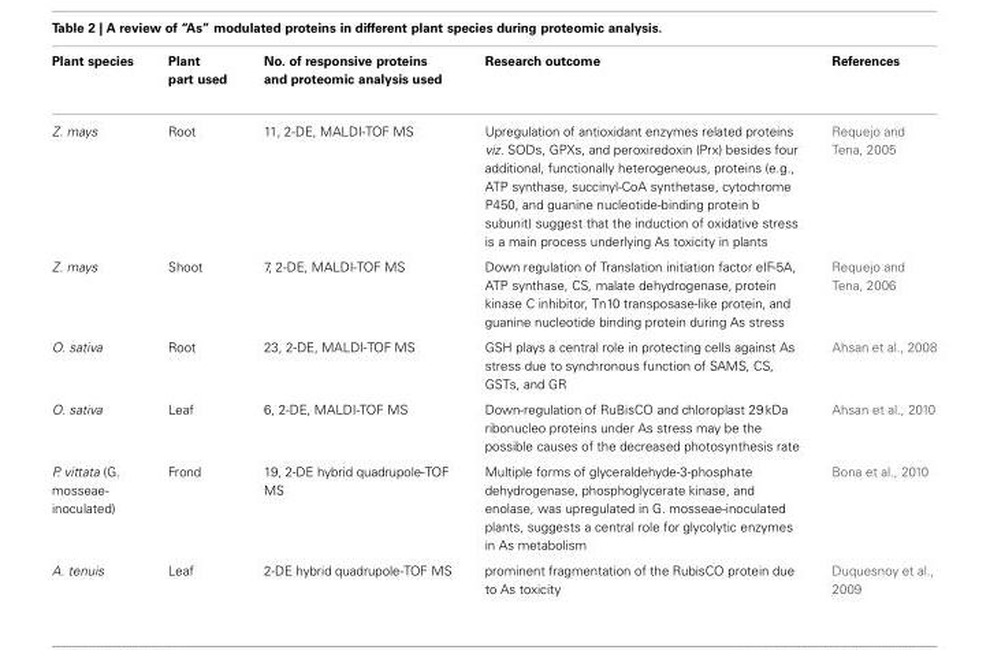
<table><thead><tr><td>Plant species</td><td>Plant part used</td><td>No. of responsive proteins and proteomic analysis used</td><td>Research outcome</td><td>References</td></tr></thead><tbody><tr><td>Z. mays</td><td>Root</td><td>11, 2-DE, MALDI-TOF MS</td><td>Upregulation of antioxidant enzymes related proteins viz. SODs, GPXs, and peroxiredoxin (Prx) besides four additional, functionally heterogeneous, proteins (e.g., ATP synthase, succinyl-CoA synthetase, cytochrome P450, and guanine nucleotide-binding protein b subunit) suggest that the induction of oxidative stress is a main process underlying As toxicity in plants</td><td>Requejo and Tena, 2005</td></tr><tr><td>Z. mays</td><td>Shoot</td><td>7, 2-DE, MALDI-TOF MS</td><td>Down regulation of Translation initiation factor eIF-5A, ATP synthase, CS, malate dehydrogenase, protein kinase C inhibitor, Tn10 transposase-like protein, and guanine nucleotide binding protein during As stress</td><td>Requejo and Tena, 2006</td></tr><tr><td>O. sativa</td><td>Root</td><td>23, 2-DE, MALDI-TOF MS</td><td>GSH plays a central role in protecting cells against As stress due to synchronous function of SAMS, CS, GSTs, and GR</td><td>Ahsan et al., 2008</td></tr><tr><td>O. sativa</td><td>Leaf</td><td>6, 2-DE, MALDI-TOF MS</td><td>Down-regulation of RuBisCO and chloroplast 29 kDa ribonucleo proteins under As stress may be the possible causes of the decreased photosynthesis rate</td><td>Ahsan et al., 2010</td></tr><tr><td>P. vittata (G. mosseae- inoculated)</td><td>Frond</td><td>19, 2-DE hybrid quadrupole-TOF MS</td><td>Multiple forms of glyceraldehyde-3-phosphate dehydrogenase, phosphoglycerate kinase, and enolase, was upregulated in G. mosseae-inoculated plants, suggests a central role for glycolytic enzymes in As metabolism</td><td>Bona et al., 2010</td></tr><tr><td>A. tenuis</td><td>Leaf</td><td>2-DE hybrid quadrupole-TOF MS</td><td>prominent fragmentation of the RubisCO protein due to As toxicity</td><td>Duquesnoy et al., 2009</td></tr></tbody></table>